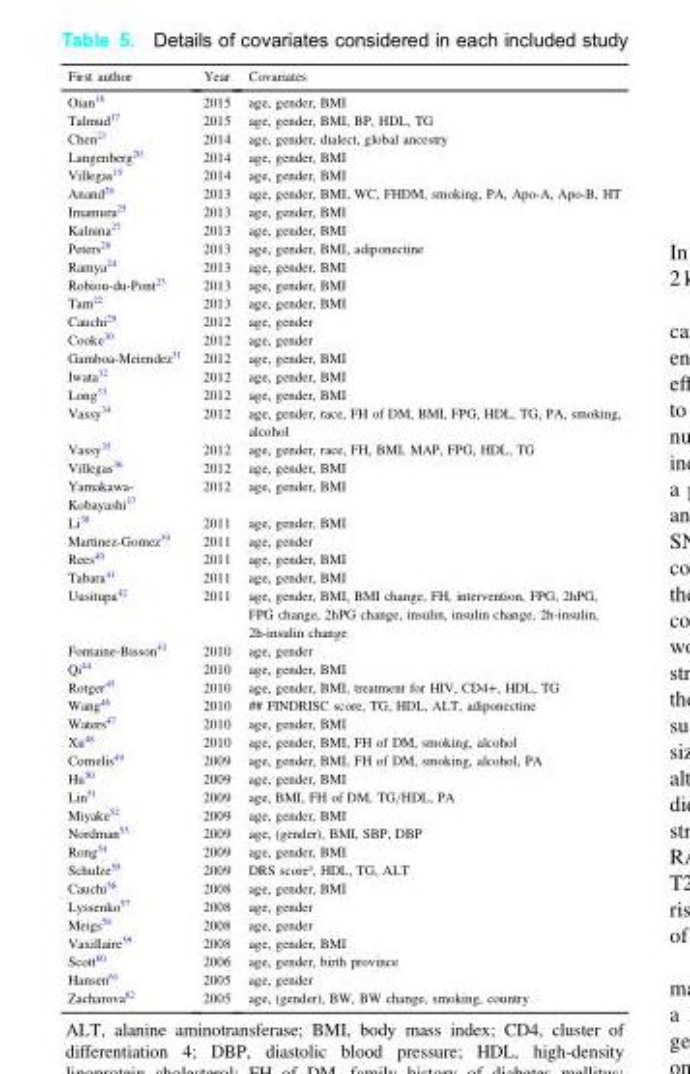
<table><thead><tr><td>First author</td><td>Year</td><td>Covariates</td></tr></thead><tbody><tr><td>Oian<sup>18</sup></td><td>2015</td><td>age, gender, BMI</td></tr><tr><td>Talmud<sup>17</sup></td><td>2015</td><td>age, gender, BMI, BP, HDL, TG</td></tr><tr><td>Chen<sup>21</sup></td><td>2014</td><td>age, gender, dialect, global ancestry</td></tr><tr><td>Langenberg<sup>20</sup></td><td>2014</td><td>age, gender, BMI</td></tr><tr><td>Villegas<sup>19</sup></td><td>2014</td><td>age, gender, BMI</td></tr><tr><td>Anand<sup>26</sup></td><td>2013</td><td>age, gender, BMI, WC, FHDM, smoking, PA, Apo-A, Apo-B, HT</td></tr><tr><td>Imamura<sup>25</sup></td><td>2013</td><td>age, gender, BMI</td></tr><tr><td>Kalnina<sup>27</sup></td><td>2013</td><td>age, gender, BMI</td></tr><tr><td>Peters<sup>28</sup></td><td>2013</td><td>age, gender, BMI, adiponectine</td></tr><tr><td>Ramya<sup>24</sup></td><td>2013</td><td>age, gender, BMI</td></tr><tr><td>Robiou-du-Pont<sup>23</sup></td><td>2013</td><td>age, gender, BMI</td></tr><tr><td>Tam<sup>22</sup></td><td>2013</td><td>age, gender, BMI</td></tr><tr><td>Cauchi<sup>29</sup></td><td>2012</td><td>age, gender</td></tr><tr><td>Cooke<sup>30</sup></td><td>2012</td><td>age, gender</td></tr><tr><td>Gamboa-Meiendez<sup>31</sup></td><td>2012</td><td>age, gender, BMI</td></tr><tr><td>Iwata<sup>32</sup></td><td>2012</td><td>age, gender, BMI</td></tr><tr><td>Long<sup>33</sup></td><td>2012</td><td>age, gender, BMI</td></tr><tr><td>Vassy<sup>34</sup></td><td>2012</td><td>age, gender, race, FH of DM, BMI, FPG, HDL, TG, PA, smoking, alcohol</td></tr><tr><td>Vassy<sup>35</sup></td><td>2012</td><td>age, gender, race, FH, BMI, MAP, FPG, HDL, TG</td></tr><tr><td>Villegas<sup>36</sup></td><td>2012</td><td>age, gender, BMI</td></tr><tr><td>Yamakawa- Kobayashi<sup>37</sup></td><td>2012</td><td>age, gender, BMI</td></tr><tr><td>Li<sup>38</sup></td><td>2011</td><td>age, gender, BMI</td></tr><tr><td>Martinez-Gomez<sup>39</sup></td><td>2011</td><td>age, gender</td></tr><tr><td>Rees<sup>40</sup></td><td>2011</td><td>age, gender, BMI</td></tr><tr><td>Tabara<sup>41</sup></td><td>2011</td><td>age, gender, BMI</td></tr><tr><td>Uusitupa<sup>42</sup></td><td>2011</td><td>age, gender, BMI, BMI change, FH, intervention, FPG, 2hPG, FPG change, 2hPG change, insulin, insulin change, 2h-insulin, 2h-insulin change</td></tr><tr><td>Fontaine-Bisson<sup>43</sup></td><td>2010</td><td>age, gender</td></tr><tr><td>Qi<sup>44</sup></td><td>2010</td><td>age, gender, BMI</td></tr><tr><td>Rotger<sup>45</sup></td><td>2010</td><td>age, gender, BMI, treatment for HIV, CD4+, HDL, TG</td></tr><tr><td>Wang<sup>46</sup></td><td>2010</td><td>## FINDRISC score, TG, HDL, ALT, adiponectine</td></tr><tr><td>Waters<sup>47</sup></td><td>2010</td><td>age, gender, BMI</td></tr><tr><td>Xu<sup>48</sup></td><td>2010</td><td>age, gender, BMI, FH of DM, smoking, alcohol</td></tr><tr><td>Cornelis<sup>49</sup></td><td>2009</td><td>age, gender, BMI, FH of DM, smoking, alcohol, PA</td></tr><tr><td>Hu<sup>50</sup></td><td>2009</td><td>age, gender, BMI</td></tr><tr><td>Lin<sup>51</sup></td><td>2009</td><td>age, BMI, FH of DM, TG=HDL, PA</td></tr><tr><td>Miyake<sup>52</sup></td><td>2009</td><td>age, gender, BMI</td></tr><tr><td>Nordman<sup>53</sup></td><td>2009</td><td>age, (gender), BMI, SBP, DBP</td></tr><tr><td>Rong<sup>54</sup></td><td>2009</td><td>age, gender, BMI</td></tr><tr><td>Schulze<sup>55</sup></td><td>2009</td><td>DRS score<sup>a</sup>, HDL, TG, ALT</td></tr><tr><td>Cauchi<sup>56</sup></td><td>2008</td><td>age, gender, BMI</td></tr><tr><td>Lyssenko<sup>57</sup></td><td>2008</td><td>age, gender</td></tr><tr><td>Meigs<sup>58</sup></td><td>2008</td><td>age, gender</td></tr><tr><td>Vaxillaire<sup>59</sup></td><td>2008</td><td>age, gender, BMI</td></tr><tr><td>Scott<sup>60</sup></td><td>2006</td><td>age, gender, birth province</td></tr><tr><td>Hansen<sup>61</sup></td><td>2005</td><td>age, gender</td></tr><tr><td>Zacharova<sup>62</sup></td><td>2005</td><td>age, (gender), BW, BW change, smoking, country</td></tr></tbody></table>